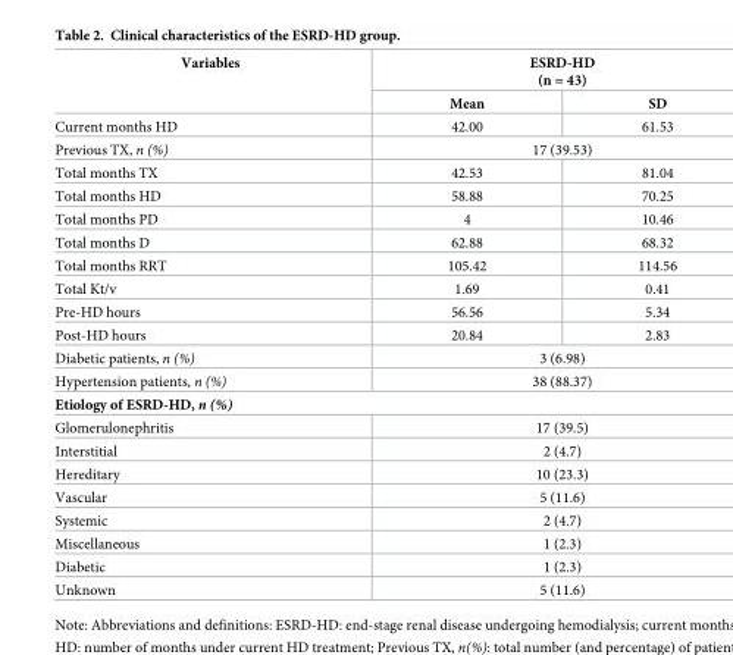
<table><thead><tr><td rowspan="2">Variables</td><td colspan="2">ESRD-HD (n = 43)</td></tr><tr><td>Mean</td><td>SD</td></tr></thead><tbody><tr><td>Current months HD</td><td>42.00</td><td>61.53</td></tr><tr><td>Previous TX, n (%)</td><td colspan="2">17 (39.53)</td></tr><tr><td>Total months TX</td><td>42.53</td><td>81.04</td></tr><tr><td>Total months HD</td><td>58.88</td><td>70.25</td></tr><tr><td>Total months PD</td><td>4</td><td>10.46</td></tr><tr><td>Total months D</td><td>62.88</td><td>68.32</td></tr><tr><td>Total months RRT</td><td>105.42</td><td>114.56</td></tr><tr><td>Total Kt/v</td><td>1.69</td><td>0.41</td></tr><tr><td>Pre-HD hours</td><td>56.56</td><td>5.34</td></tr><tr><td>Post-HD hours</td><td>20.84</td><td>2.83</td></tr><tr><td>Diabetic patients, n (%)</td><td colspan="2">3 (6.98)</td></tr><tr><td>Hypertension patients, n (%)</td><td colspan="2">38 (88.37)</td></tr><tr><td colspan="3">Etiology of ESRD-HD, n (%)</td></tr><tr><td>Glomerulonephritis</td><td colspan="2">17 (39.5)</td></tr><tr><td>Interstitial</td><td colspan="2">2 (4.7)</td></tr><tr><td>Hereditary</td><td colspan="2">10 (23.3)</td></tr><tr><td>Vascular</td><td colspan="2">5 (11.6)</td></tr><tr><td>Systemic</td><td colspan="2">2 (4.7)</td></tr><tr><td>Miscellaneous</td><td colspan="2">1 (2.3)</td></tr><tr><td>Diabetic</td><td colspan="2">1 (2.3)</td></tr><tr><td>Unknown</td><td colspan="2">5 (11.6)</td></tr></tbody></table>